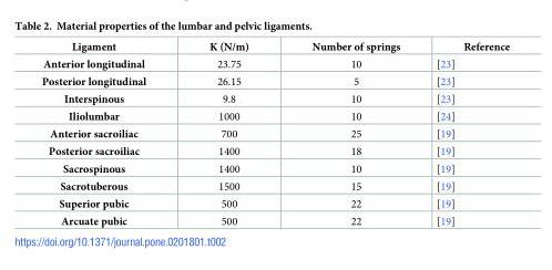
<table><thead><tr><td>Ligament</td><td>K (N/m)</td><td>Number of springs</td><td>Reference</td></tr></thead><tbody><tr><td>Anterior longitudinal</td><td>23.75</td><td>10</td><td>[23]</td></tr><tr><td>Posterior longitudinal</td><td>26.15</td><td>5</td><td>[23]</td></tr><tr><td>Interspinous</td><td>9.8</td><td>10</td><td>[23]</td></tr><tr><td>Iliolumbar</td><td>1000</td><td>10</td><td>[24]</td></tr><tr><td>Anterior sacroiliac</td><td>700</td><td>25</td><td>[19]</td></tr><tr><td>Posterior sacroiliac</td><td>1400</td><td>18</td><td>[19]</td></tr><tr><td>Sacrospinous</td><td>1400</td><td>10</td><td>[19]</td></tr><tr><td>Sacrotuberous</td><td>1500</td><td>15</td><td>[19]</td></tr><tr><td>Superior pubic</td><td>500</td><td>22</td><td>[19]</td></tr><tr><td>Arcuate pubic</td><td>500</td><td>22</td><td>[19]</td></tr></tbody></table>